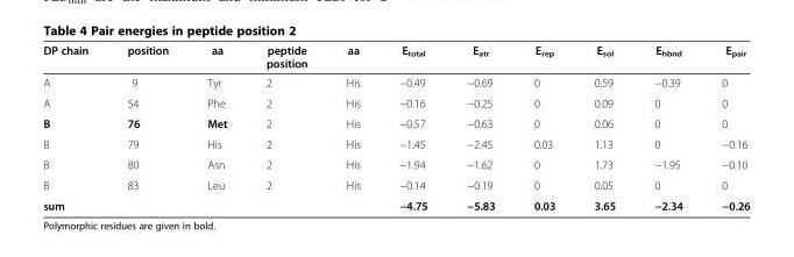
<table><thead><tr><td>DP chain</td><td>position</td><td>aa</td><td>peptide position</td><td>aa</td><td>E<sub>total</sub></td><td>E<sub>atr</sub></td><td>E<sub>rep</sub></td><td>E<sub>sol</sub></td><td>E<sub>hbnd</sub></td><td>E<sub>pair</sub></td></tr></thead><tbody><tr><td>A</td><td>9</td><td>Tyr</td><td>2</td><td>His</td><td>−0.49</td><td>−0.69</td><td>0</td><td>0.59</td><td>−0.39</td><td>0</td></tr><tr><td>A</td><td>54</td><td>Phe</td><td>2</td><td>His</td><td>−0.16</td><td>−0.25</td><td>0</td><td>0.09</td><td>0</td><td>0</td></tr><tr><td>B</td><td>76</td><td>Met</td><td>2</td><td>His</td><td>−0.57</td><td>−0.63</td><td>0</td><td>0.06</td><td>0</td><td>0</td></tr><tr><td>B</td><td>79</td><td>His</td><td>2</td><td>His</td><td>−1.45</td><td>−2.45</td><td>0.03</td><td>1.13</td><td>0</td><td>−0.16</td></tr><tr><td>B</td><td>80</td><td>Asn</td><td>2</td><td>His</td><td>−1.94</td><td>−1.62</td><td>0</td><td>1.73</td><td>−1.95</td><td>−0.10</td></tr><tr><td>B</td><td>83</td><td>Leu</td><td>2</td><td>His</td><td>−0.14</td><td>−0.19</td><td>0</td><td>0.05</td><td>0</td><td>0</td></tr><tr><td>sum</td><td></td><td></td><td></td><td></td><td>−4.75</td><td>−5.83</td><td>0.03</td><td>3.65</td><td>−2.34</td><td>−0.26</td></tr></tbody></table>